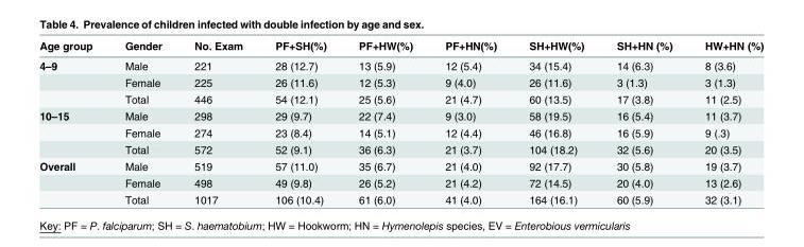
<table><thead><tr><td>Age group</td><td>Gender</td><td>No. Exam</td><td>PF+SH(%)</td><td>PF+HW(%)</td><td>PF+HN(%)</td><td>SH+HW(%)</td><td>SH+HN (%)</td><td>HW+HN (%)</td></tr></thead><tbody><tr><td rowspan="3">4–9</td><td>Male</td><td>221</td><td>28 (12.7)</td><td>13 (5.9)</td><td>12 (5.4)</td><td>34 (15.4)</td><td>14 (6.3)</td><td>8 (3.6)</td></tr><tr><td>Female</td><td>225</td><td>26 (11.6)</td><td>12 (5.3)</td><td>9 (4.0)</td><td>26 (11.6)</td><td>3 (1.3)</td><td>3 (1.3)</td></tr><tr><td>Total</td><td>446</td><td>54 (12.1)</td><td>25 (5.6)</td><td>21 (4.7)</td><td>60 (13.5)</td><td>17 (3.8)</td><td>11 (2.5)</td></tr><tr><td rowspan="3">10–15</td><td>Male</td><td>298</td><td>29 (9.7)</td><td>22 (7.4)</td><td>9 (3.0)</td><td>58 (19.5)</td><td>16 (5.4)</td><td>11 (3.7)</td></tr><tr><td>Female</td><td>274</td><td>23 (8.4)</td><td>14 (5.1)</td><td>12 (4.4)</td><td>46 (16.8)</td><td>16 (5.9)</td><td>9 (.3)</td></tr><tr><td>Total</td><td>572</td><td>52 (9.1)</td><td>36 (6.3)</td><td>21 (3.7)</td><td>104 (18.2)</td><td>32 (5.6)</td><td>20 (3.5)</td></tr><tr><td rowspan="3">Overall</td><td>Male</td><td>519</td><td>57 (11.0)</td><td>35 (6.7)</td><td>21 (4.0)</td><td>92 (17.7)</td><td>30 (5.8)</td><td>19 (3.7)</td></tr><tr><td>Female</td><td>498</td><td>49 (9.8)</td><td>26 (5.2)</td><td>21 (4.2)</td><td>72 (14.5)</td><td>20 (4.0)</td><td>13 (2.6)</td></tr><tr><td>Total</td><td>1017</td><td>106 (10.4)</td><td>61 (6.0)</td><td>41 (4.0)</td><td>164 (16.1)</td><td>60 (5.9)</td><td>32 (3.1)</td></tr></tbody></table>